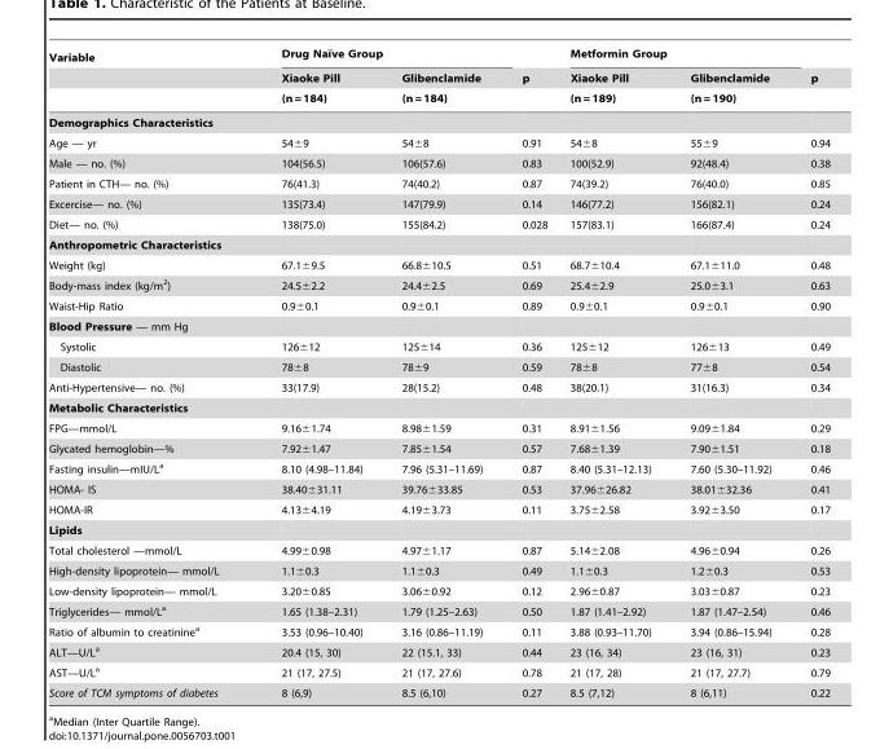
<table><thead><tr><td rowspan="3">Variable</td><td colspan="2">Drug Naı¨ve Group</td><td rowspan="3">p</td><td colspan="2">Metformin Group</td><td rowspan="3">p</td></tr><tr><td rowspan="2">Xiaoke Pill (n = 184)</td><td rowspan="2">Glibenclamide (n = 184)</td><td rowspan="2">Xiaoke Pill (n = 189)</td><td rowspan="2">Glibenclamide (n = 190)</td></tr><tr></tr></thead><tbody><tr><td colspan="7">Demographics Characteristics</td></tr><tr><td>Age — yr</td><td>54±9</td><td>54±8</td><td>0.91</td><td>54±8</td><td>55±9</td><td>0.94</td></tr><tr><td>Male — no. (%)</td><td>104(56.5)</td><td>106(57.6)</td><td>0.83</td><td>100(52.9)</td><td>92(48.4)</td><td>0.38</td></tr><tr><td>Patient in CTH— no. (%)</td><td>76(41.3)</td><td>74(40.2)</td><td>0.87</td><td>74(39.2)</td><td>76(40.0)</td><td>0.85</td></tr><tr><td>Excercise— no. (%)</td><td>135(73.4)</td><td>147(79.9)</td><td>0.14</td><td>146(77.2)</td><td>156(82.1)</td><td>0.24</td></tr><tr><td>Diet— no. (%)</td><td>138(75.0)</td><td>155(84.2)</td><td>0.028</td><td>157(83.1)</td><td>166(87.4)</td><td>0.24</td></tr><tr><td colspan="7">Anthropometric Characteristics</td></tr><tr><td>Weight (kg)</td><td>67.1±9.5</td><td>66.8±10.5</td><td>0.51</td><td>68.7±10.4</td><td>67.1±11.0</td><td>0.48</td></tr><tr><td>Body-mass index (kg/m<sup>2</sup>)</td><td>24.5±2.2</td><td>24.4±2.5</td><td>0.69</td><td>25.4±2.9</td><td>25.0±3.1</td><td>0.63</td></tr><tr><td>Waist-Hip Ratio</td><td>0.9±0.1</td><td>0.9±0.1</td><td>0.89</td><td>0.9±0.1</td><td>0.9±0.1</td><td>0.90</td></tr><tr><td colspan="7">Blood Pressure — mm Hg</td></tr><tr><td>Systolic</td><td>126±12</td><td>125±14</td><td>0.36</td><td>125±12</td><td>126±13</td><td>0.49</td></tr><tr><td>Diastolic</td><td>78±8</td><td>78±9</td><td>0.59</td><td>78±8</td><td>77±8</td><td>0.54</td></tr><tr><td>Anti-Hypertensive— no. (%)</td><td>33(17.9)</td><td>28(15.2)</td><td>0.48</td><td>38(20.1)</td><td>31(16.3)</td><td>0.34</td></tr><tr><td colspan="7">Metabolic Characteristics</td></tr><tr><td>FPG—mmol/L</td><td>9.16±1.74</td><td>8.98±1.59</td><td>0.31</td><td>8.91±1.56</td><td>9.09±1.84</td><td>0.29</td></tr><tr><td>Glycated hemoglobin—%</td><td>7.92±1.47</td><td>7.85±1.54</td><td>0.57</td><td>7.68±1.39</td><td>7.90±1.51</td><td>0.18</td></tr><tr><td>Fasting insulin—mIU/L<sup>a</sup></td><td>8.10 (4.98–11.84)</td><td>7.96 (5.31–11.69)</td><td>0.87</td><td>8.40 (5.31–12.13)</td><td>7.60 (5.30–11.92)</td><td>0.46</td></tr><tr><td>HOMA- IS</td><td>38.40±31.11</td><td>39.76±33.85</td><td>0.53</td><td>37.96±26.82</td><td>38.01±32.36</td><td>0.41</td></tr><tr><td>HOMA-IR</td><td>4.13±4.19</td><td>4.19±3.73</td><td>0.11</td><td>3.75±2.58</td><td>3.92±3.50</td><td>0.17</td></tr><tr><td colspan="7">Lipids</td></tr><tr><td>Total cholesterol —mmol/L</td><td>4.99±0.98</td><td>4.97±1.17</td><td>0.87</td><td>5.14±2.08</td><td>4.96±0.94</td><td>0.26</td></tr><tr><td>High-density lipoprotein— mmol/L</td><td>1.1±0.3</td><td>1.1±0.3</td><td>0.49</td><td>1.1±0.3</td><td>1.2±0.3</td><td>0.53</td></tr><tr><td>Low-density lipoprotein— mmol/L</td><td>3.20±0.85</td><td>3.06±0.92</td><td>0.12</td><td>2.96±0.87</td><td>3.03±0.87</td><td>0.23</td></tr><tr><td>Triglycerides— mmol/L<sup>a</sup></td><td>1.65 (1.38–2.31)</td><td>1.79 (1.25–2.63)</td><td>0.50</td><td>1.87 (1.41–2.92)</td><td>1.87 (1.47–2.54)</td><td>0.46</td></tr><tr><td>Ratio of albumin to creatinine<sup>a</sup></td><td>3.53 (0.96–10.40)</td><td>3.16 (0.86–11.19)</td><td>0.11</td><td>3.88 (0.93–11.70)</td><td>3.94 (0.86–15.94)</td><td>0.28</td></tr><tr><td>ALT—U/L<sup>a</sup></td><td>20.4 (15, 30)</td><td>22 (15.1, 33)</td><td>0.44</td><td>23 (16, 34)</td><td>23 (16, 31)</td><td>0.23</td></tr><tr><td>AST—U/L<sup>a</sup></td><td>21 (17, 27.5)</td><td>21 (17, 27.6)</td><td>0.78</td><td>21 (17, 28)</td><td>21 (17, 27.7)</td><td>0.79</td></tr><tr><td>Score of TCM symptoms of diabetes</td><td>8 (6,9)</td><td>8.5 (6,10)</td><td>0.27</td><td>8.5 (7,12)</td><td>8 (6,11)</td><td>0.22</td></tr></tbody></table>